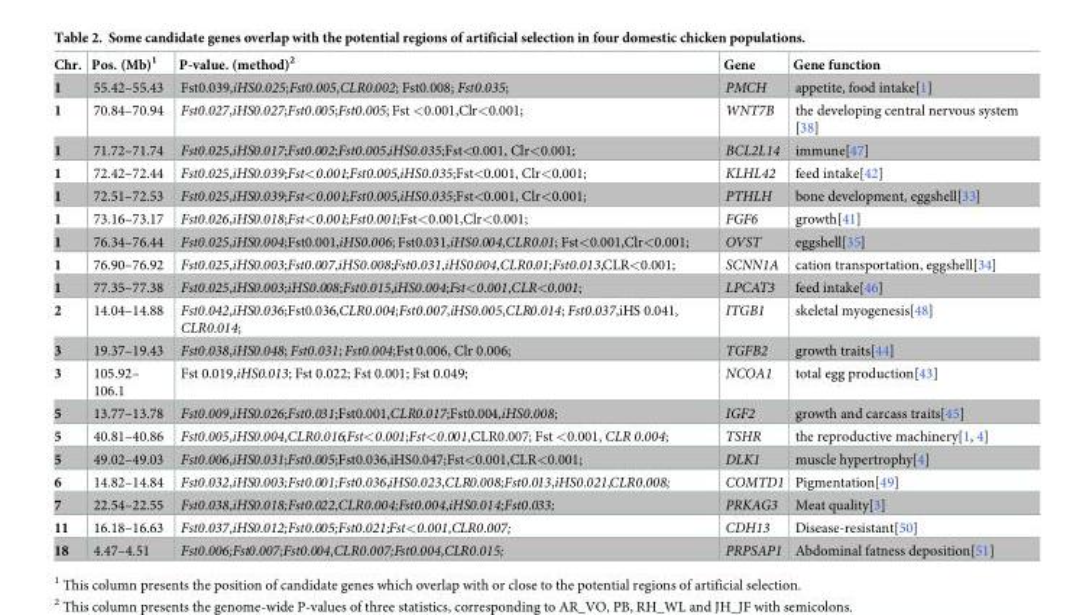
<table><thead><tr><td>Chr.</td><td>Pos. (Mb)<sup>1</sup></td><td>P-value. (method)<sup>2</sup></td><td>Gene</td><td>Gene function</td></tr></thead><tbody><tr><td>1</td><td>55.42–55.43</td><td>Fst0.039,iHS0.025;Fst0.005,CLR0.002; Fst0.008; Fst0.035;</td><td>PMCH</td><td>appetite, food intake[1]</td></tr><tr><td>1</td><td>70.84–70.94</td><td>Fst0.027,iHS0.027;Fst0.005;Fst0.005; Fst &lt;0.001,Clr&lt;0.001;</td><td>WNT7B</td><td>the developing central nervous system [38]</td></tr><tr><td>1</td><td>71.72–71.74</td><td>Fst0.025,iHS0.017;Fst0.002;Fst0.005,iHS0.035;Fst&lt;0.001, Clr&lt;0.001;</td><td>BCL2L14</td><td>immune[47]</td></tr><tr><td>1</td><td>72.42–72.44</td><td>Fst0.025,iHS0.039;Fst&lt;0.001;Fst0.005,iHS0.035;Fst&lt;0.001, Clr&lt;0.001;</td><td>KLHL42</td><td>feed intake[42]</td></tr><tr><td>1</td><td>72.51–72.53</td><td>Fst0.025,iHS0.039;Fst&lt;0.001;Fst0.005,iHS0.035;Fst&lt;0.001, Clr&lt;0.001;</td><td>PTHLH</td><td>bone development, eggshell[33]</td></tr><tr><td>1</td><td>73.16–73.17</td><td>Fst0.026,iHS0.018;Fst&lt;0.001;Fst0.001;Fst&lt;0.001,Clr&lt;0.001;</td><td>FGF6</td><td>growth[41]</td></tr><tr><td>1</td><td>76.34–76.44</td><td>Fst0.025,iHS0.004;Fst0.001,iHS0.006; Fst0.031,iHS0.004,CLR0.01; Fst&lt;0.001,Clr&lt;0.001;</td><td>OVST</td><td>eggshell[35]</td></tr><tr><td>1</td><td>76.90–76.92</td><td>Fst0.025,iHS0.003;Fst0.007,iHS0.008;Fst0.031,iHS0.004,CLR0.01;Fst0.013,CLR&lt;0.001;</td><td>SCNN1A</td><td>cation transportation, eggshell[34]</td></tr><tr><td>1</td><td>77.35–77.38</td><td>Fst0.025,iHS0.003;iHS0.008;Fst0.015,iHS0.004;Fst&lt;0.001,CLR&lt;0.001;</td><td>LPCAT3</td><td>feed intake[46]</td></tr><tr><td>2</td><td>14.04–14.88</td><td>Fst0.042,iHS0.036;Fst0.036,CLR0.004;Fst0.007,iHS0.005,CLR0.014; Fst0.037,iHS 0.041, CLR0.014;</td><td>ITGB1</td><td>skeletal myogenesis[48]</td></tr><tr><td>3</td><td>19.37–19.43</td><td>Fst0.038,iHS0.048; Fst0.031; Fst0.004;Fst 0.006, Clr 0.006;</td><td>TGFB2</td><td>growth traits[44]</td></tr><tr><td>3</td><td>105.92– 106.1</td><td>Fst 0.019,iHS0.013; Fst 0.022; Fst 0.001; Fst 0.049;</td><td>NCOA1</td><td>total egg production[43]</td></tr><tr><td>5</td><td>13.77–13.78</td><td>Fst0.009,iHS0.026;Fst0.031;Fst0.001,CLR0.017;Fst0.004,iHS0.008;</td><td>IGF2</td><td>growth and carcass traits[45]</td></tr><tr><td>5</td><td>40.81–40.86</td><td>Fst0.005,iHS0.004,CLR0.016;Fst&lt;0.001;Fst&lt;0.001,CLR0.007; Fst &lt;0.001, CLR 0.004;</td><td>TSHR</td><td>the reproductive machinery[1, 4]</td></tr><tr><td>5</td><td>49.02–49.03</td><td>Fst0.006,iHS0.031;Fst0.005;Fst0.036,iHS0.047;Fst&lt;0.001,CLR&lt;0.001;</td><td>DLK1</td><td>muscle hypertrophy[4]</td></tr><tr><td>6</td><td>14.82–14.84</td><td>Fst0.032,iHS0.003;Fst0.001;Fst0.036,iHS0.023,CLR0.008;Fst0.013,iHS0.021,CLR0.008;</td><td>COMTD1</td><td>Pigmentation[49]</td></tr><tr><td>7</td><td>22.54–22.55</td><td>Fst0.038,iHS0.018;Fst0.022,CLR0.004;Fst0.004,iHS0.014;Fst0.033;</td><td>PRKAG3</td><td>Meat quality[3]</td></tr><tr><td>11</td><td>16.18–16.63</td><td>Fst0.037,iHS0.012;Fst0.005;Fst0.021;Fst&lt;0.001,CLR0.007;</td><td>CDH13</td><td>Disease-resistant[50]</td></tr><tr><td>18</td><td>4.47–4.51</td><td>Fst0.006;Fst0.007;Fst0.004,CLR0.007;Fst0.004,CLR0.015;</td><td>PRPSAP1</td><td>Abdominal fatness deposition[51]</td></tr></tbody></table>